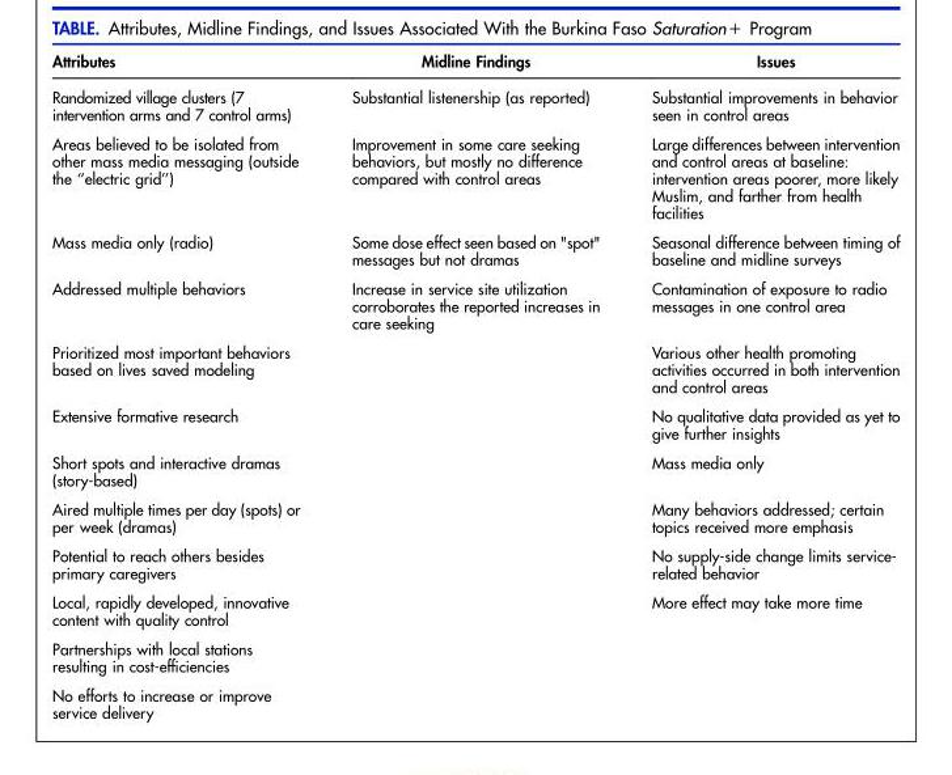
<table><thead><tr><td>Attributes</td><td>Midline Findings</td><td>Issues</td></tr></thead><tbody><tr><td>Randomized village clusters (7 intervention arms and 7 control arms)</td><td>Substantial listenership (as reported)</td><td>Substantial improvements in behavior seen in control areas</td></tr><tr><td>Areas believed to be isolated from other mass media messaging (outside the ‘‘electric grid’’)</td><td>Improvement in some care seeking behaviors, but mostly no difference compared with control areas</td><td>Large differences between intervention and control areas at baseline: intervention areas poorer, more likely Muslim, and farther from health facilities</td></tr><tr><td>Mass media only (radio)</td><td>Some dose effect seen based on &quot;spot&quot; messages but not dramas</td><td>Seasonal difference between timing of baseline and midline surveys</td></tr><tr><td>Addressed multiple behaviors</td><td>Increase in service site utilization corroborates the reported increases in care seeking</td><td>Contamination of exposure to radio messages in one control area</td></tr><tr><td>Prioritized most important behaviors based on lives saved modeling</td><td></td><td>Various other health promoting activities occurred in both intervention and control areas</td></tr><tr><td>Extensive formative research</td><td></td><td>No qualitative data provided as yet to give further insights</td></tr><tr><td>Short spots and interactive dramas (story-based)</td><td></td><td>Mass media only</td></tr><tr><td>Aired multiple times per day (spots) or per week (dramas)</td><td></td><td>Many behaviors addressed; certain topics received more emphasis</td></tr><tr><td>Potential to reach others besides primary caregivers</td><td></td><td>No supply-side change limits service- related behavior</td></tr><tr><td>Local, rapidly developed, innovative content with quality control</td><td></td><td>More effect may take more time</td></tr><tr><td colspan="3">Partnerships with local stations resulting in cost-efficiencies</td></tr><tr><td>No efforts to increase or improve service delivery</td><td></td><td></td></tr></tbody></table>